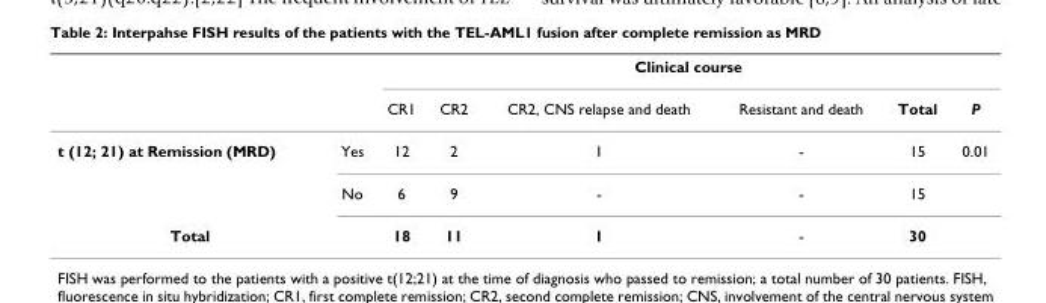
<table><thead><tr><td rowspan="2"></td><td rowspan="2"></td><td colspan="6">Clinical course</td></tr><tr><td>CR1</td><td>CR2</td><td>CR2, CNS relapse and death</td><td>Resistant and death</td><td>Total</td><td>P</td></tr></thead><tbody><tr><td rowspan="2">t (12; 21) at Remission (MRD)</td><td>Yes</td><td>12</td><td>2</td><td>1</td><td>-</td><td>15</td><td>0.01</td></tr><tr><td>No</td><td>6</td><td>9</td><td>-</td><td>-</td><td>15</td><td></td></tr><tr><td>Total</td><td></td><td>18</td><td>11</td><td>1</td><td>-</td><td>30</td><td></td></tr></tbody></table>